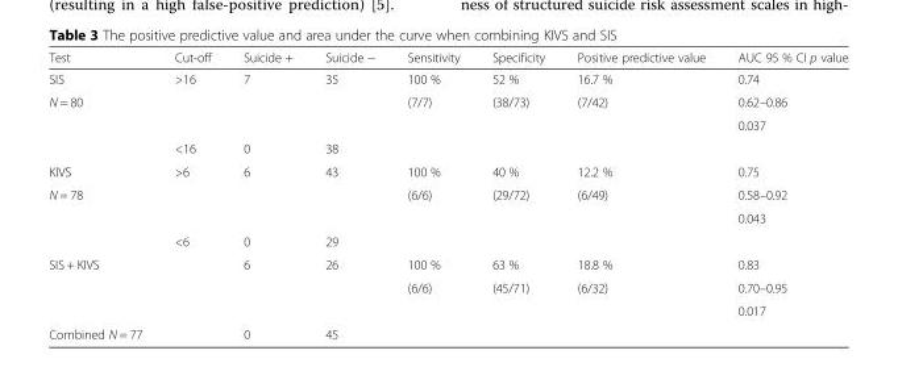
<table><thead><tr><td>Test</td><td>Cut-off</td><td>Suicide +</td><td>Suicide −</td><td>Sensitivity</td><td>Specificity</td><td>Positive predictive value</td><td>AUC 95 % CI p value</td></tr></thead><tbody><tr><td>SIS</td><td>&gt;16</td><td>7</td><td>35</td><td>100 %</td><td>52 %</td><td>16.7 %</td><td>0.74</td></tr><tr><td rowspan="3">N = 80</td><td></td><td></td><td></td><td>(7/7)</td><td>(38/73)</td><td>(7/42)</td><td>0.62–0.86</td></tr><tr><td></td><td></td><td></td><td></td><td></td><td></td><td>0.037</td></tr><tr><td>&lt;16</td><td>0</td><td>38</td><td></td><td></td><td></td><td></td></tr><tr><td>KIVS</td><td>&gt;6</td><td>6</td><td>43</td><td>100 %</td><td>40 %</td><td>12.2 %</td><td>0.75</td></tr><tr><td rowspan="3">N = 78</td><td></td><td></td><td></td><td>(6/6)</td><td>(29/72)</td><td>(6/49)</td><td>0.58–0.92</td></tr><tr><td></td><td></td><td></td><td></td><td></td><td></td><td>0.043</td></tr><tr><td>&lt;6</td><td>0</td><td>29</td><td></td><td></td><td></td><td></td></tr><tr><td rowspan="3">SIS + KIVS</td><td></td><td>6</td><td>26</td><td>100 %</td><td>63 %</td><td>18.8 %</td><td>0.83</td></tr><tr><td></td><td></td><td></td><td>(6/6)</td><td>(45/71)</td><td>(6/32)</td><td>0.70–0.95</td></tr><tr><td></td><td></td><td></td><td></td><td></td><td></td><td>0.017</td></tr><tr><td>Combined N = 77</td><td></td><td>0</td><td>45</td><td></td><td></td><td></td><td></td></tr></tbody></table>